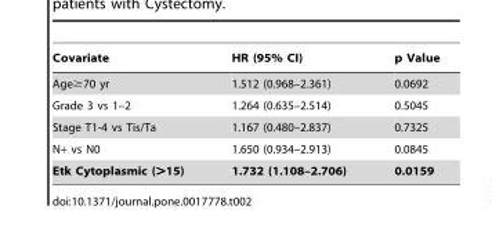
<table><thead><tr><td>Covariate</td><td>HR (95% CI)</td><td>p Value</td></tr></thead><tbody><tr><td>Age≥70 yr</td><td>1.512 (0.968–2.361)</td><td>0.0692</td></tr><tr><td>Grade 3 vs 1–2</td><td>1.264 (0.635–2.514)</td><td>0.5045</td></tr><tr><td>Stage T1-4 vs Tis/Ta</td><td>1.167 (0.480–2.837)</td><td>0.7325</td></tr><tr><td>N+ vs N0</td><td>1.650 (0.934–2.913)</td><td>0.0845</td></tr><tr><td>Etk Cytoplasmic (&gt;15)</td><td>1.732 (1.108–2.706)</td><td>0.0159</td></tr></tbody></table>